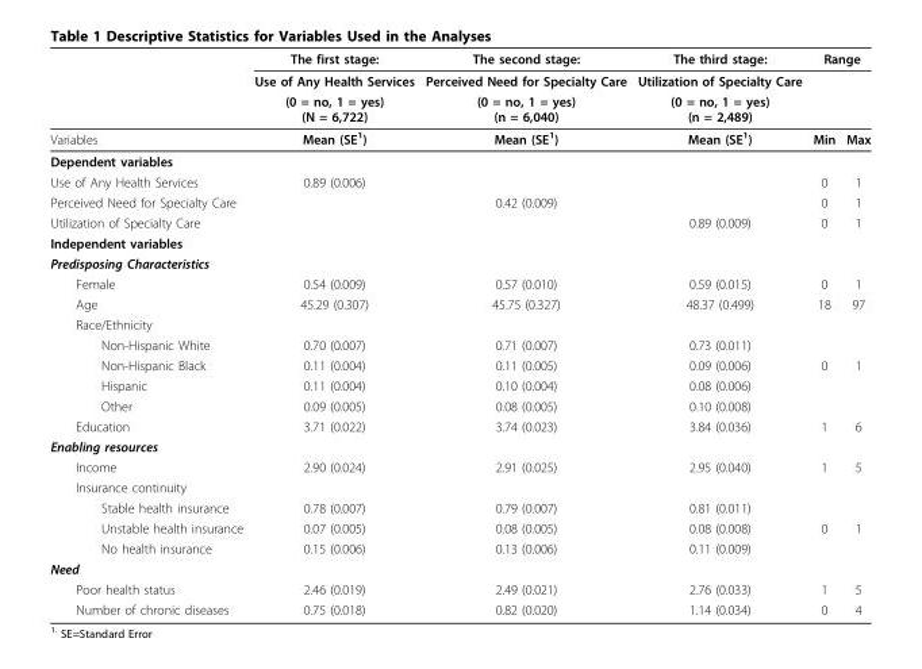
<table><thead><tr><td rowspan="3"></td><td rowspan="3">The first stage: Use of Any Health Services (0 = no, 1 = yes) (N = 6,722)</td><td rowspan="3">The second stage: Perceived Need for Specialty Care (0 = no, 1 = yes) (n = 6,040)</td><td rowspan="3">The third stage: Utilization of Specialty Care (0 = no, 1 = yes) (n = 2,489)</td><td colspan="2">Range</td></tr><tr><td rowspan="2"></td><td rowspan="2"></td></tr><tr></tr></thead><tbody><tr><td>Variables</td><td>Mean (SE1)</td><td>Mean (SE1)</td><td>Mean (SE1)</td><td>Min</td><td>Max</td></tr><tr><td colspan="6">Dependent variables</td></tr><tr><td>Use of Any Health Services</td><td>0.89 (0.006)</td><td></td><td></td><td>0</td><td>1</td></tr><tr><td>Perceived Need for Specialty Care</td><td></td><td>0.42 (0.009)</td><td></td><td>0</td><td>1</td></tr><tr><td>Utilization of Specialty Care</td><td></td><td></td><td>0.89 (0.009)</td><td>0</td><td>1</td></tr><tr><td colspan="6">Independent variables</td></tr><tr><td colspan="6">Predisposing Characteristics</td></tr><tr><td>Female</td><td>0.54 (0.009)</td><td>0.57 (0.010)</td><td>0.59 (0.015)</td><td>0</td><td>1</td></tr><tr><td>Age</td><td>45.29 (0.307)</td><td>45.75 (0.327)</td><td>48.37 (0.499)</td><td>18</td><td>97</td></tr><tr><td colspan="6">Race/Ethnicity</td></tr><tr><td>Non-Hispanic White</td><td>0.70 (0.007)</td><td>0.71 (0.007)</td><td>0.73 (0.011)</td><td></td><td></td></tr><tr><td>Non-Hispanic Black</td><td>0.11 (0.004)</td><td>0.11 (0.005)</td><td>0.09 (0.006)</td><td>0</td><td>1</td></tr><tr><td>Hispanic</td><td>0.11 (0.004)</td><td>0.10 (0.004)</td><td>0.08 (0.006)</td><td></td><td></td></tr><tr><td>Other</td><td>0.09 (0.005)</td><td>0.08 (0.005)</td><td>0.10 (0.008)</td><td></td><td></td></tr><tr><td>Education</td><td>3.71 (0.022)</td><td>3.74 (0.023)</td><td>3.84 (0.036)</td><td>1</td><td>6</td></tr><tr><td colspan="6">Enabling resources</td></tr><tr><td>Income</td><td>2.90 (0.024)</td><td>2.91 (0.025)</td><td>2.95 (0.040)</td><td>1</td><td>5</td></tr><tr><td colspan="6">Insurance continuity</td></tr><tr><td>Stable health insurance</td><td>0.78 (0.007)</td><td>0.79 (0.007)</td><td>0.81 (0.011)</td><td></td><td></td></tr><tr><td>Unstable health insurance</td><td>0.07 (0.005)</td><td>0.08 (0.005)</td><td>0.08 (0.008)</td><td>0</td><td>1</td></tr><tr><td>No health insurance</td><td>0.15 (0.006)</td><td>0.13 (0.006)</td><td>0.11 (0.009)</td><td></td><td></td></tr><tr><td colspan="6">Need</td></tr><tr><td>Poor health status</td><td>2.46 (0.019)</td><td>2.49 (0.021)</td><td>2.76 (0.033)</td><td>1</td><td>5</td></tr><tr><td>Number of chronic diseases</td><td>0.75 (0.018)</td><td>0.82 (0.020)</td><td>1.14 (0.034)</td><td>0</td><td>4</td></tr></tbody></table>